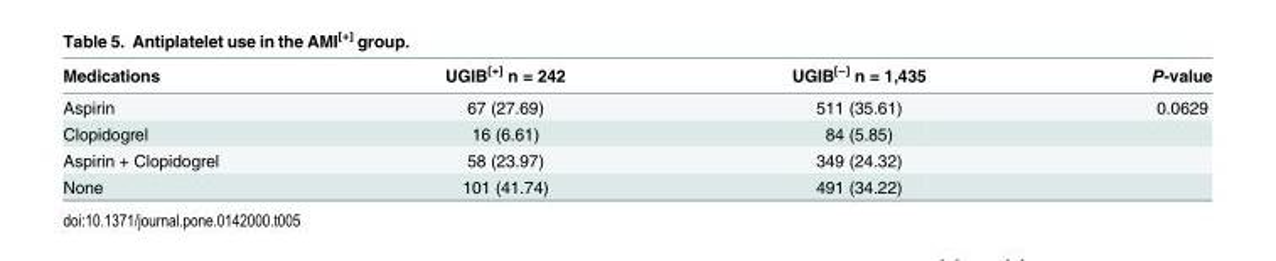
<table><thead><tr><td>Medications</td><td>UGIB<sup>[+]</sup> n = 242</td><td>UGIB<sup>[−]</sup> n = 1,435</td><td>P-value</td></tr></thead><tbody><tr><td>Aspirin</td><td>67 (27.69)</td><td>511 (35.61)</td><td>0.0629</td></tr><tr><td>Clopidogrel</td><td>16 (6.61)</td><td>84 (5.85)</td><td></td></tr><tr><td>Aspirin + Clopidogrel</td><td>58 (23.97)</td><td>349 (24.32)</td><td></td></tr><tr><td>None</td><td>101 (41.74)</td><td>491 (34.22)</td><td></td></tr></tbody></table>